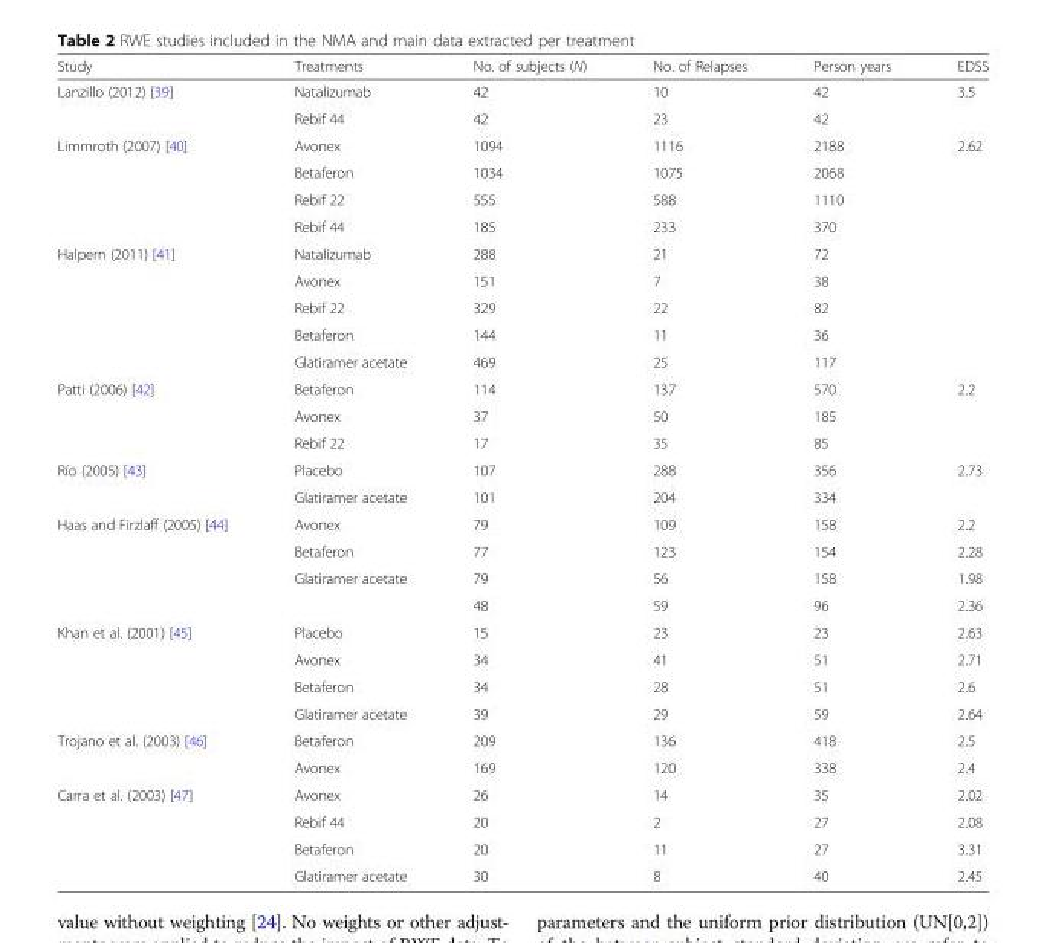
<table><thead><tr><td>Study</td><td>Treatments</td><td>No. of subjects (N)</td><td>No. of Relapses</td><td>Person years</td><td>EDSS</td></tr></thead><tbody><tr><td rowspan="2">Lanzillo (2012) [39]</td><td>Natalizumab</td><td>42</td><td>10</td><td>42</td><td rowspan="2">3.5</td></tr><tr><td>Rebif 44</td><td>42</td><td>23</td><td>42</td></tr><tr><td rowspan="4">Limmroth (2007) [40]</td><td>Avonex</td><td>1094</td><td>1116</td><td>2188</td><td rowspan="4">2.62</td></tr><tr><td>Betaferon</td><td>1034</td><td>1075</td><td>2068</td></tr><tr><td>Rebif 22</td><td>555</td><td>588</td><td>1110</td></tr><tr><td>Rebif 44</td><td>185</td><td>233</td><td>370</td></tr><tr><td rowspan="5">Halpern (2011) [41]</td><td>Natalizumab</td><td>288</td><td>21</td><td>72</td><td rowspan="5"></td></tr><tr><td>Avonex</td><td>151</td><td>7</td><td>38</td></tr><tr><td>Rebif 22</td><td>329</td><td>22</td><td>82</td></tr><tr><td>Betaferon</td><td>144</td><td>11</td><td>36</td></tr><tr><td>Glatiramer acetate</td><td>469</td><td>25</td><td>117</td></tr><tr><td rowspan="3">Patti (2006) [42]</td><td>Betaferon</td><td>114</td><td>137</td><td>570</td><td rowspan="3">2.2</td></tr><tr><td>Avonex</td><td>37</td><td>50</td><td>185</td></tr><tr><td>Rebif 22</td><td>17</td><td>35</td><td>85</td></tr><tr><td rowspan="2">Río (2005) [43]</td><td>Placebo</td><td>107</td><td>288</td><td>356</td><td rowspan="2">2.73</td></tr><tr><td>Glatiramer acetate</td><td>101</td><td>204</td><td>334</td></tr><tr><td rowspan="4">Haas and Firzlaff (2005) [44]</td><td>Avonex</td><td>79</td><td>109</td><td>158</td><td>2.2</td></tr><tr><td>Betaferon</td><td>77</td><td>123</td><td>154</td><td>2.28</td></tr><tr><td rowspan="2">Glatiramer acetate</td><td>79</td><td>56</td><td>158</td><td>1.98</td></tr><tr><td>48</td><td>59</td><td>96</td><td>2.36</td></tr><tr><td rowspan="4">Khan et al. (2001) [45]</td><td>Placebo</td><td>15</td><td>23</td><td>23</td><td>2.63</td></tr><tr><td>Avonex</td><td>34</td><td>41</td><td>51</td><td>2.71</td></tr><tr><td>Betaferon</td><td>34</td><td>28</td><td>51</td><td>2.6</td></tr><tr><td>Glatiramer acetate</td><td>39</td><td>29</td><td>59</td><td>2.64</td></tr><tr><td rowspan="2">Trojano et al. (2003) [46]</td><td>Betaferon</td><td>209</td><td>136</td><td>418</td><td>2.5</td></tr><tr><td>Avonex</td><td>169</td><td>120</td><td>338</td><td>2.4</td></tr><tr><td rowspan="4">Carra et al. (2003) [47]</td><td>Avonex</td><td>26</td><td>14</td><td>35</td><td>2.02</td></tr><tr><td>Rebif 44</td><td>20</td><td>2</td><td>27</td><td>2.08</td></tr><tr><td>Betaferon</td><td>20</td><td>11</td><td>27</td><td>3.31</td></tr><tr><td>Glatiramer acetate</td><td>30</td><td>8</td><td>40</td><td>2.45</td></tr></tbody></table>